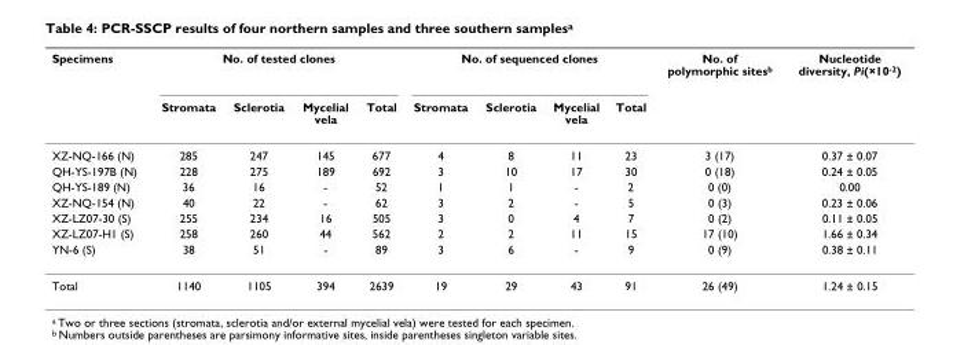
<table><thead><tr><td rowspan="2">Specimens</td><td colspan="4">No. of tested clones</td><td colspan="4">No. of sequenced clones</td><td rowspan="2">No. of polymorphic sites<sup>b</sup></td><td rowspan="2">Nucleotide diversity, Pi(×10<sup>-2</sup>)</td></tr><tr><td>Stromata</td><td>Sclerotia</td><td>Mycelial vela</td><td>Total</td><td>Stromata</td><td>Sclerotia</td><td>Mycelial vela</td><td>Total</td></tr></thead><tbody><tr><td>XZ-NQ-166 (N)</td><td>285</td><td>247</td><td>145</td><td>677</td><td>4</td><td>8</td><td>11</td><td>23</td><td>3 (17)</td><td>0.37 ± 0.07</td></tr><tr><td>QH-YS-197B (N)</td><td>228</td><td>275</td><td>189</td><td>692</td><td>3</td><td>10</td><td>17</td><td>30</td><td>0 (18)</td><td>0.24 ± 0.05</td></tr><tr><td>QH-YS-189 (N)</td><td>36</td><td>16</td><td>-</td><td>52</td><td>1</td><td>1</td><td>-</td><td>2</td><td>0 (0)</td><td>0.00</td></tr><tr><td>XZ-NQ-154 (N)</td><td>40</td><td>22</td><td>-</td><td>62</td><td>3</td><td>2</td><td>-</td><td>5</td><td>0 (3)</td><td>0.23 ± 0.06</td></tr><tr><td>XZ-LZ07-30 (S)</td><td>255</td><td>234</td><td>16</td><td>505</td><td>3</td><td>0</td><td>4</td><td>7</td><td>0 (2)</td><td>0.11 ± 0.05</td></tr><tr><td>XZ-LZ07-H1 (S)</td><td>258</td><td>260</td><td>44</td><td>562</td><td>2</td><td>2</td><td>11</td><td>15</td><td>17 (10)</td><td>1.66 ± 0.34</td></tr><tr><td>YN-6 (S)</td><td>38</td><td>51</td><td>-</td><td>89</td><td>3</td><td>6</td><td>-</td><td>9</td><td>0 (9)</td><td>0.38 ± 0.11</td></tr><tr><td>Total</td><td>1140</td><td>1105</td><td>394</td><td>2639</td><td>19</td><td>29</td><td>43</td><td>91</td><td>26 (49)</td><td>1.24 ± 0.15</td></tr></tbody></table>